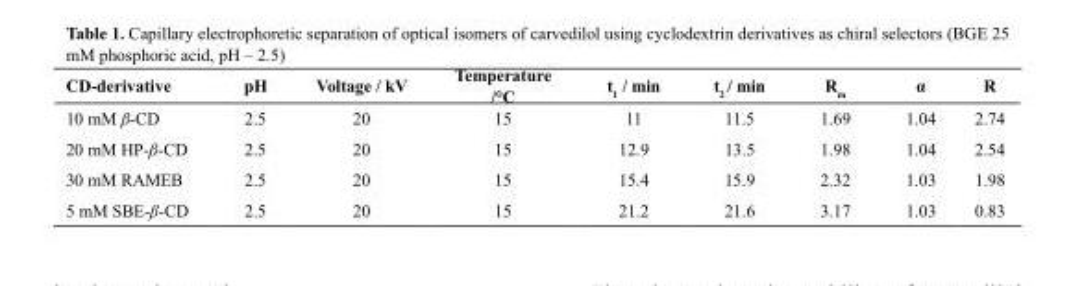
<table><thead><tr><td>CD-derivative</td><td>pH</td><td>Voltage / kV</td><td>Temperature /°C</td><td>t<sub>1</sub> / min</td><td>t<sub>2</sub> / min</td><td>R<sub>m</sub></td><td>α</td><td>R</td></tr></thead><tbody><tr><td>10 mM β-CD</td><td>2.5</td><td>20</td><td>15</td><td>11</td><td>11.5</td><td>1.69</td><td>1.04</td><td>2.74</td></tr><tr><td>20 mM HP-β-CD</td><td>2.5</td><td>20</td><td>15</td><td>12.9</td><td>13.5</td><td>1.98</td><td>1.04</td><td>2.54</td></tr><tr><td>30 mM RAMEB</td><td>2.5</td><td>20</td><td>15</td><td>15.4</td><td>15.9</td><td>2.32</td><td>1.03</td><td>1.98</td></tr><tr><td>5 mM SBE-β-CD</td><td>2.5</td><td>20</td><td>15</td><td>21.2</td><td>21.6</td><td>3.17</td><td>1.03</td><td>0.83</td></tr></tbody></table>